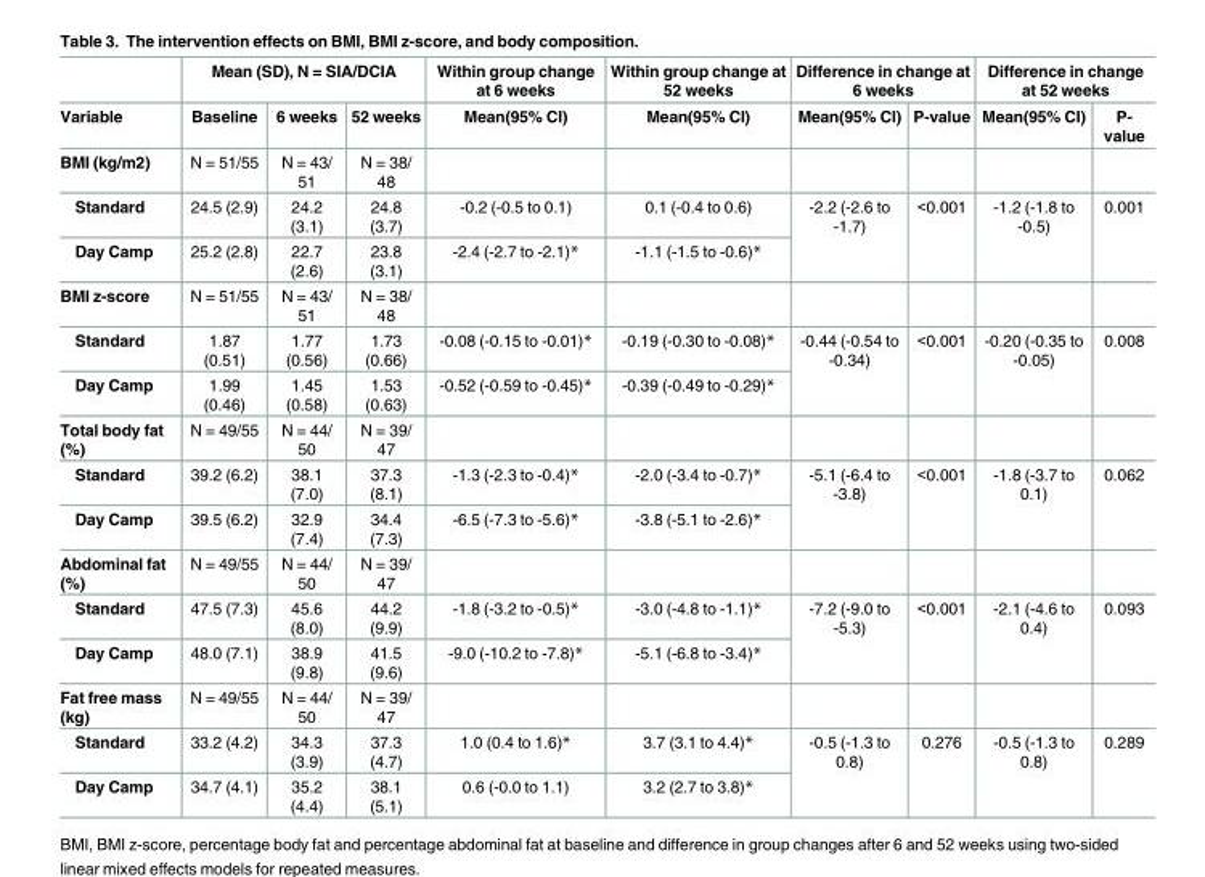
<table><thead><tr><td rowspan="2">Variable</td><td colspan="3">Mean (SD), N = SIA/DCIA</td><td rowspan="2">Within group change at 6 weeks Mean(95% CI)</td><td rowspan="2">Within group change at 52 weeks Mean(95% CI)</td><td colspan="2">Difference in change at 6 weeks</td><td colspan="2">Difference in change at 52 weeks</td></tr><tr><td>Baseline</td><td>6 weeks</td><td>52 weeks</td><td>Mean(95% CI)</td><td>P-value</td><td>Mean(95% CI)</td><td>P- value</td></tr></thead><tbody><tr><td>BMI (kg/m2)</td><td>N = 51/55</td><td>N = 43/ 51</td><td>N = 38/ 48</td><td></td><td></td><td></td><td></td><td></td><td></td></tr><tr><td>Standard</td><td>24.5 (2.9)</td><td>24.2 (3.1)</td><td>24.8 (3.7)</td><td>-0.2 (-0.5 to 0.1)</td><td>0.1 (-0.4 to 0.6)</td><td rowspan="2">-2.2 (-2.6 to -1.7)</td><td rowspan="2">&lt;0.001</td><td rowspan="2">-1.2 (-1.8 to -0.5)</td><td rowspan="2">0.001</td></tr><tr><td>Day Camp</td><td>25.2 (2.8)</td><td>22.7 (2.6)</td><td>23.8 (3.1)</td><td>-2.4 (-2.7 to -2.1)*</td><td>-1.1 (-1.5 to -0.6)*</td></tr><tr><td>BMI z-score</td><td>N = 51/55</td><td>N = 43/ 51</td><td>N = 38/ 48</td><td></td><td></td><td></td><td></td><td></td><td></td></tr><tr><td>Standard</td><td>1.87 (0.51)</td><td>1.77 (0.56)</td><td>1.73 (0.66)</td><td>-0.08 (-0.15 to -0.01)*</td><td>-0.19 (-0.30 to -0.08)*</td><td rowspan="2">-0.44 (-0.54 to -0.34)</td><td rowspan="2">&lt;0.001</td><td rowspan="2">-0.20 (-0.35 to -0.05)</td><td rowspan="2">0.008</td></tr><tr><td>Day Camp</td><td>1.99 (0.46)</td><td>1.45 (0.58)</td><td>1.53 (0.63)</td><td>-0.52 (-0.59 to -0.45)*</td><td>-0.39 (-0.49 to -0.29)*</td></tr><tr><td>Total body fat (%)</td><td>N = 49/55</td><td>N = 44/ 50</td><td>N = 39/ 47</td><td></td><td></td><td></td><td></td><td></td><td></td></tr><tr><td>Standard</td><td>39.2 (6.2)</td><td>38.1 (7.0)</td><td>37.3 (8.1)</td><td>-1.3 (-2.3 to -0.4)*</td><td>-2.0 (-3.4 to -0.7)*</td><td rowspan="2">-5.1 (-6.4 to -3.8)</td><td rowspan="2">&lt;0.001</td><td rowspan="2">-1.8 (-3.7 to 0.1)</td><td rowspan="2">0.062</td></tr><tr><td>Day Camp</td><td>39.5 (6.2)</td><td>32.9 (7.4)</td><td>34.4 (7.3)</td><td>-6.5 (-7.3 to -5.6)*</td><td>-3.8 (-5.1 to -2.6)*</td></tr><tr><td>Abdominal fat (%)</td><td>N = 49/55</td><td>N = 44/ 50</td><td>N = 39/ 47</td><td></td><td></td><td></td><td></td><td></td><td></td></tr><tr><td>Standard</td><td>47.5 (7.3)</td><td>45.6 (8.0)</td><td>44.2 (9.9)</td><td>-1.8 (-3.2 to -0.5)*</td><td>-3.0 (-4.8 to -1.1)*</td><td rowspan="2">-7.2 (-9.0 to -5.3)</td><td rowspan="2">&lt;0.001</td><td rowspan="2">-2.1 (-4.6 to 0.4)</td><td rowspan="2">0.093</td></tr><tr><td>Day Camp</td><td>48.0 (7.1)</td><td>38.9 (9.8)</td><td>41.5 (9.6)</td><td>-9.0 (-10.2 to -7.8)*</td><td>-5.1 (-6.8 to -3.4)*</td></tr><tr><td>Fat free mass (kg)</td><td>N = 49/55</td><td>N = 44/ 50</td><td>N = 39/ 47</td><td></td><td></td><td></td><td></td><td></td><td></td></tr><tr><td>Standard</td><td>33.2 (4.2)</td><td>34.3 (3.9)</td><td>37.3 (4.7)</td><td>1.0 (0.4 to 1.6)*</td><td>3.7 (3.1 to 4.4)*</td><td rowspan="2">-0.5 (-1.3 to 0.8)</td><td rowspan="2">0.276</td><td rowspan="2">-0.5 (-1.3 to 0.8)</td><td rowspan="2">0.289</td></tr><tr><td>Day Camp</td><td>34.7 (4.1)</td><td>35.2 (4.4)</td><td>38.1 (5.1)</td><td>0.6 (-0.0 to 1.1)</td><td>3.2 (2.7 to 3.8)*</td></tr></tbody></table>